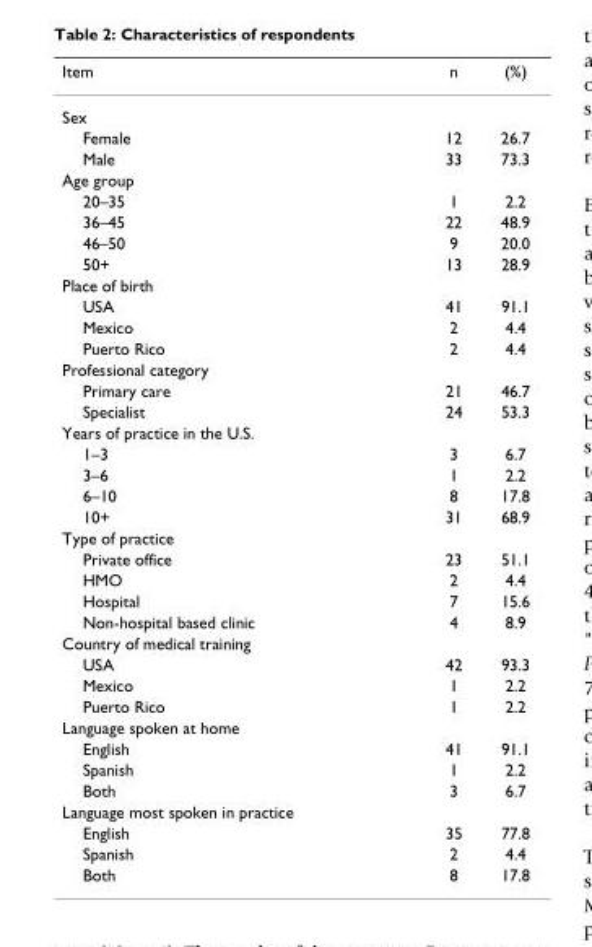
<table><thead><tr><td>Item</td><td>n</td><td>(%)</td></tr></thead><tbody><tr><td colspan="3">Sex</td></tr><tr><td>Female</td><td>12</td><td>26.7</td></tr><tr><td>Male</td><td>33</td><td>73.3</td></tr><tr><td colspan="3">Age group</td></tr><tr><td>20–35</td><td>1</td><td>2.2</td></tr><tr><td>36–45</td><td>22</td><td>48.9</td></tr><tr><td>46–50</td><td>9</td><td>20.0</td></tr><tr><td>50+</td><td>13</td><td>28.9</td></tr><tr><td colspan="3">Place of birth</td></tr><tr><td>USA</td><td>41</td><td>91.1</td></tr><tr><td>Mexico</td><td>2</td><td>4.4</td></tr><tr><td>Puerto Rico</td><td>2</td><td>4.4</td></tr><tr><td colspan="3">Professional category</td></tr><tr><td>Primary care</td><td>21</td><td>46.7</td></tr><tr><td>Specialist</td><td>24</td><td>53.3</td></tr><tr><td colspan="3">Years of practice in the U.S.</td></tr><tr><td>1–3</td><td>3</td><td>6.7</td></tr><tr><td>3–6</td><td>1</td><td>2.2</td></tr><tr><td>6–10</td><td>8</td><td>17.8</td></tr><tr><td>10+</td><td>31</td><td>68.9</td></tr><tr><td colspan="3">Type of practice</td></tr><tr><td>Private office</td><td>23</td><td>51.1</td></tr><tr><td>HMO</td><td>2</td><td>4.4</td></tr><tr><td>Hospital</td><td>7</td><td>15.6</td></tr><tr><td>Non-hospital based clinic</td><td>4</td><td>8.9</td></tr><tr><td colspan="3">Country of medical training</td></tr><tr><td>USA</td><td>42</td><td>93.3</td></tr><tr><td>Mexico</td><td>1</td><td>2.2</td></tr><tr><td>Puerto Rico</td><td>1</td><td>2.2</td></tr><tr><td colspan="3">Language spoken at home</td></tr><tr><td>English</td><td>41</td><td>91.1</td></tr><tr><td>Spanish</td><td>1</td><td>2.2</td></tr><tr><td>Both</td><td>3</td><td>6.7</td></tr><tr><td colspan="3">Language most spoken in practice</td></tr><tr><td>English</td><td>35</td><td>77.8</td></tr><tr><td>Spanish</td><td>2</td><td>4.4</td></tr><tr><td>Both</td><td>8</td><td>17.8</td></tr></tbody></table>